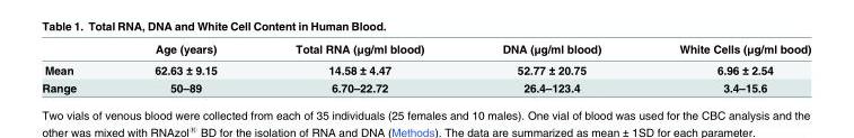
<table><thead><tr><td></td><td>Age (years)</td><td>Total RNA (μg/ml blood)</td><td>DNA (μg/ml blood)</td><td>White Cells (μg/ml bood)</td></tr></thead><tbody><tr><td>Mean</td><td>62.63 ± 9.15</td><td>14.58 ± 4.47</td><td>52.77 ± 20.75</td><td>6.96 ± 2.54</td></tr><tr><td>Range</td><td>50–89</td><td>6.70–22.72</td><td>26.4–123.4</td><td>3.4–15.6</td></tr></tbody></table>